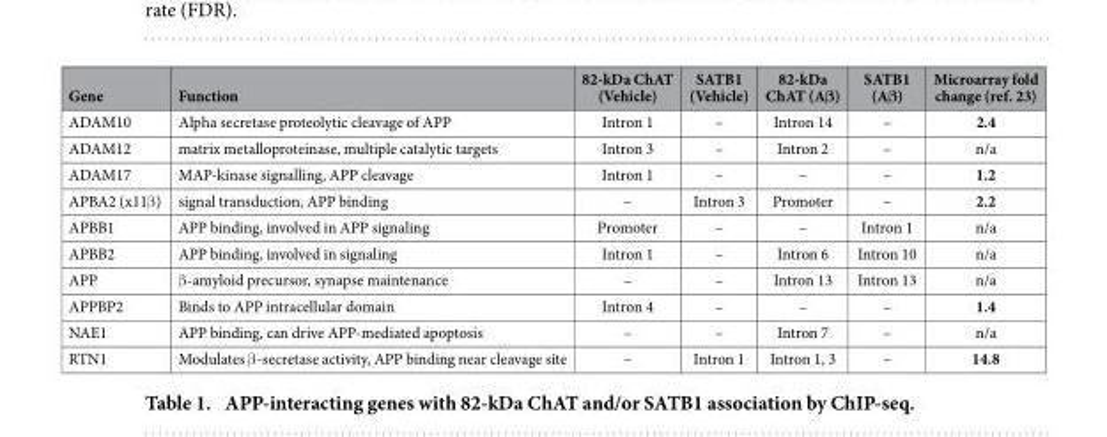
<table><thead><tr><td>Gene</td><td>Function</td><td>82-kDa ChAT (Vehicle)</td><td>SATB1 (Vehicle)</td><td>82-kDa ChAT (Aβ)</td><td>SATB1 (Aβ)</td><td>Microarray fold change (ref. 23)</td></tr></thead><tbody><tr><td>ADAM10</td><td>Alpha secretase proteolytic cleavage of APP</td><td>Intron 1</td><td>–</td><td>Intron 14</td><td>–</td><td>2.4</td></tr><tr><td>ADAM12</td><td>matrix metalloproteinase, multiple catalytic targets</td><td>Intron 3</td><td>–</td><td>Intron 2</td><td>–</td><td>n/a</td></tr><tr><td>ADAM17</td><td>MAP-kinase signalling, APP cleavage</td><td>Intron 1</td><td>–</td><td>–</td><td>–</td><td>1.2</td></tr><tr><td>APBA2 (x11β )</td><td>signal transduction, APP binding</td><td>–</td><td>Intron 3</td><td>Promoter</td><td>–</td><td>2.2</td></tr><tr><td>APBB1</td><td>APP binding, involved in APP signaling</td><td>Promoter</td><td>–</td><td>–</td><td>Intron 1</td><td>n/a</td></tr><tr><td>APBB2</td><td>APP binding, involved in signaling</td><td>Intron 1</td><td>–</td><td>Intron 6</td><td>Intron 10</td><td>n/a</td></tr><tr><td>APP</td><td>β -amyloid precursor, synapse maintenance</td><td>–</td><td>–</td><td>Intron 13</td><td>Intron 13</td><td>n/a</td></tr><tr><td>APPBP2</td><td>Binds to APP intracellular domain</td><td>Intron 4</td><td>–</td><td>–</td><td>–</td><td>1.4</td></tr><tr><td>NAE1</td><td>APP binding, can drive APP-mediated apoptosis</td><td>–</td><td>–</td><td>Intron 7</td><td>–</td><td>n/a</td></tr><tr><td>RTN1</td><td>Modulates β -secretase activity, APP binding near cleavage site</td><td>–</td><td>Intron 1</td><td>Intron 1, 3</td><td>–</td><td>14.8</td></tr></tbody></table>